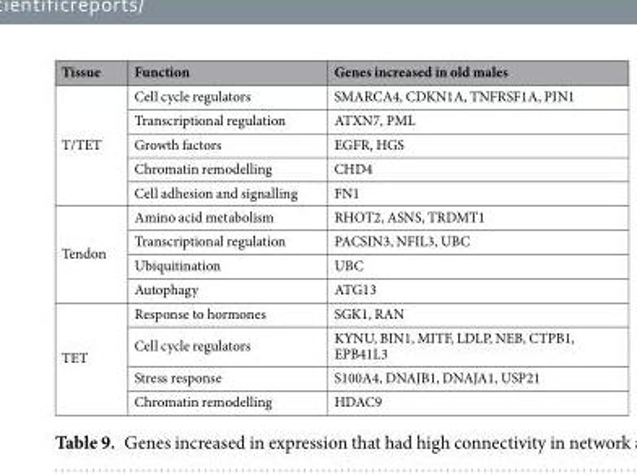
<table><thead><tr><td>Tissue</td><td>Function</td><td>Genes increased in old males</td></tr></thead><tbody><tr><td rowspan="5">T/TET</td><td>Cell cycle regulators</td><td>SMARCA4, CDKN1A, TNFRSF1A, PIN1</td></tr><tr><td>Transcriptional regulation</td><td>ATXN7, PML</td></tr><tr><td>Growth factors</td><td>EGFR, HGS</td></tr><tr><td>Chromatin remodelling</td><td>CHD4</td></tr><tr><td>Cell adhesion and signalling</td><td>FN1</td></tr><tr><td rowspan="4">Tendon</td><td>Amino acid metabolism</td><td>RHOT2, ASNS, TRDMT1</td></tr><tr><td>Transcriptional regulation</td><td>PACSIN3, NFIL3, UBC</td></tr><tr><td>Ubiquitination</td><td>UBC</td></tr><tr><td>Autophagy</td><td>ATG13</td></tr><tr><td rowspan="4">TET</td><td>Response to hormones</td><td>SGK1, RAN</td></tr><tr><td>Cell cycle regulators</td><td>KYNU, BIN1, MITF, LDLP, NEB, CTPB1, EPB41L3</td></tr><tr><td>Stress response</td><td>S100A4, DNAJB1, DNAJA1, USP21</td></tr><tr><td>Chromatin remodelling</td><td>HDAC9</td></tr></tbody></table>